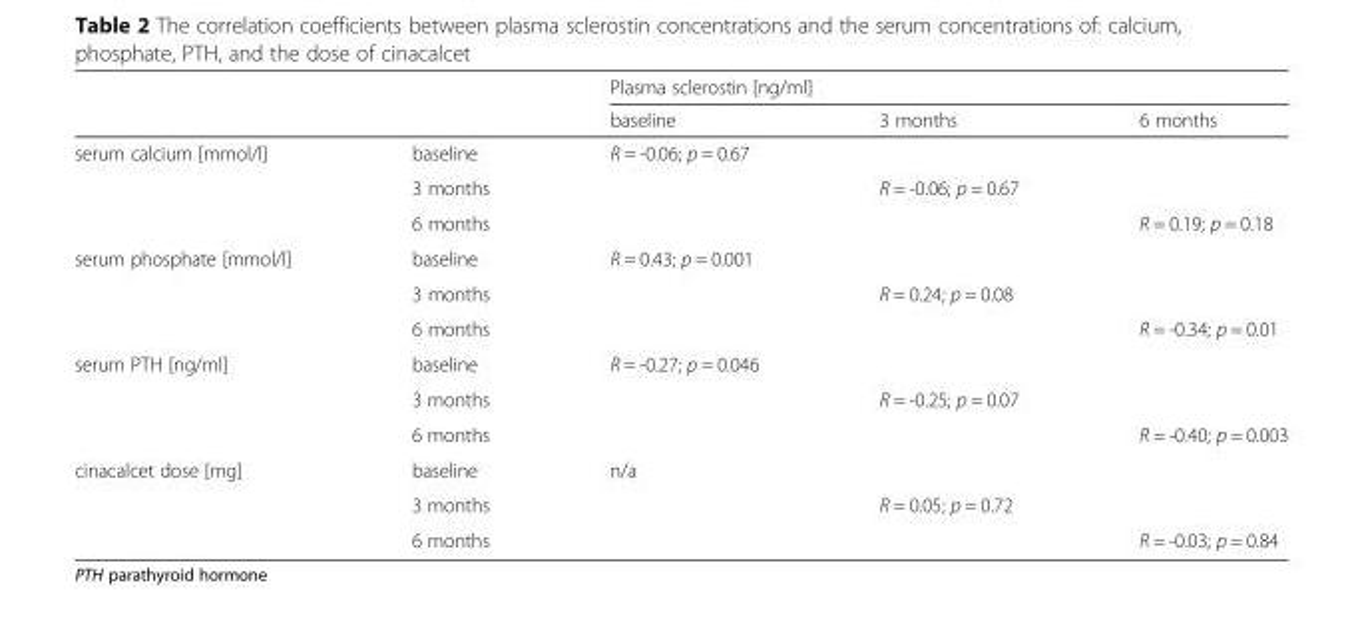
<table><thead><tr><td rowspan="2"></td><td rowspan="2"></td><td colspan="3">Plasma sclerostin [ng/ml]</td></tr><tr><td>baseline</td><td>3 months</td><td>6 months</td></tr></thead><tbody><tr><td rowspan="3">serum calcium [mmol/l]</td><td>baseline</td><td>R = -0.06; p = 0.67</td><td></td><td></td></tr><tr><td>3 months</td><td></td><td>R = -0.06; p = 0.67</td><td></td></tr><tr><td>6 months</td><td></td><td></td><td>R = 0.19; p = 0.18</td></tr><tr><td rowspan="3">serum phosphate [mmol/l]</td><td>baseline</td><td>R = 0.43; p = 0.001</td><td></td><td></td></tr><tr><td>3 months</td><td></td><td>R = 0.24; p = 0.08</td><td></td></tr><tr><td>6 months</td><td></td><td></td><td>R = -0.34; p = 0.01</td></tr><tr><td rowspan="3">serum PTH [ng/ml]</td><td>baseline</td><td>R = -0.27; p = 0.046</td><td></td><td></td></tr><tr><td>3 months</td><td></td><td>R = -0.25; p = 0.07</td><td></td></tr><tr><td>6 months</td><td></td><td></td><td>R = -0.40; p = 0.003</td></tr><tr><td rowspan="3">cinacalcet dose [mg]</td><td>baseline</td><td>n/a</td><td></td><td></td></tr><tr><td>3 months</td><td></td><td>R = 0.05; p = 0.72</td><td></td></tr><tr><td>6 months</td><td></td><td></td><td>R = -0.03; p = 0.84</td></tr></tbody></table>